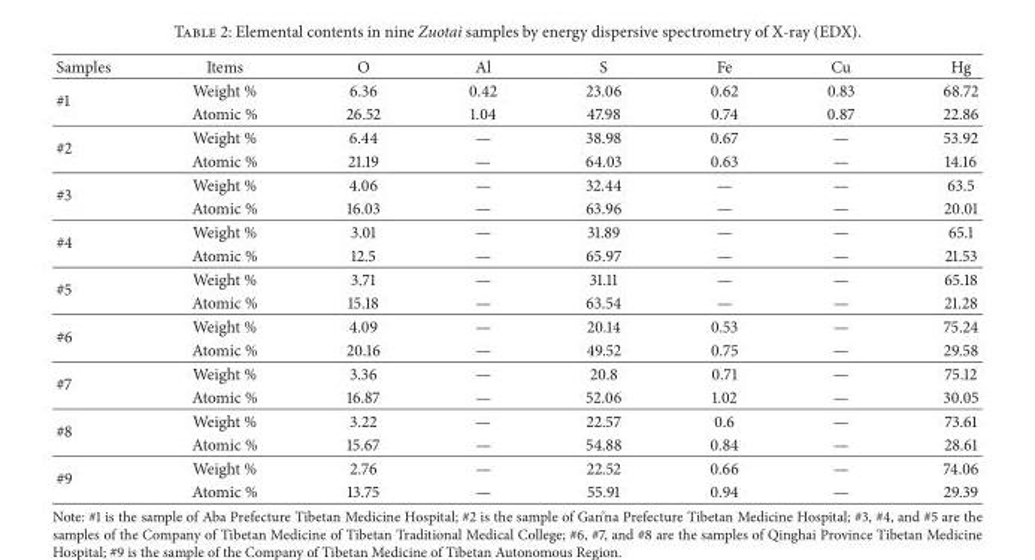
<table><thead><tr><td>Samples</td><td>Items</td><td>O</td><td>Al</td><td>S</td><td>Fe</td><td>Cu</td><td>Hg</td></tr></thead><tbody><tr><td rowspan="2">#1</td><td>Weight %</td><td>6.36</td><td>0.42</td><td>23.06</td><td>0.62</td><td>0.83</td><td>68.72</td></tr><tr><td>Atomic %</td><td>26.52</td><td>1.04</td><td>47.98</td><td>0.74</td><td>0.87</td><td>22.86</td></tr><tr><td rowspan="2">#2</td><td>Weight %</td><td>6.44</td><td>—</td><td>38.98</td><td>0.67</td><td>—</td><td>53.92</td></tr><tr><td>Atomic %</td><td>21.19</td><td>—</td><td>64.03</td><td>0.63</td><td>—</td><td>14.16</td></tr><tr><td rowspan="2">#3</td><td>Weight %</td><td>4.06</td><td>—</td><td>32.44</td><td>—</td><td>—</td><td>63.5</td></tr><tr><td>Atomic %</td><td>16.03</td><td>—</td><td>63.96</td><td>—</td><td>—</td><td>20.01</td></tr><tr><td rowspan="2">#4</td><td>Weight %</td><td>3.01</td><td>—</td><td>31.89</td><td>—</td><td>—</td><td>65.1</td></tr><tr><td>Atomic %</td><td>12.5</td><td>—</td><td>65.97</td><td>—</td><td>—</td><td>21.53</td></tr><tr><td rowspan="2">#5</td><td>Weight %</td><td>3.71</td><td>—</td><td>31.11</td><td>—</td><td>—</td><td>65.18</td></tr><tr><td>Atomic %</td><td>15.18</td><td>—</td><td>63.54</td><td>—</td><td>—</td><td>21.28</td></tr><tr><td rowspan="2">#6</td><td>Weight %</td><td>4.09</td><td>—</td><td>20.14</td><td>0.53</td><td>—</td><td>75.24</td></tr><tr><td>Atomic %</td><td>20.16</td><td>—</td><td>49.52</td><td>0.75</td><td>—</td><td>29.58</td></tr><tr><td rowspan="2">#7</td><td>Weight %</td><td>3.36</td><td>—</td><td>20.8</td><td>0.71</td><td>—</td><td>75.12</td></tr><tr><td>Atomic %</td><td>16.87</td><td>—</td><td>52.06</td><td>1.02</td><td>—</td><td>30.05</td></tr><tr><td rowspan="2">#8</td><td>Weight %</td><td>3.22</td><td>—</td><td>22.57</td><td>0.6</td><td>—</td><td>73.61</td></tr><tr><td>Atomic %</td><td>15.67</td><td>—</td><td>54.88</td><td>0.84</td><td>—</td><td>28.61</td></tr><tr><td rowspan="2">#9</td><td>Weight %</td><td>2.76</td><td>—</td><td>22.52</td><td>0.66</td><td>—</td><td>74.06</td></tr><tr><td>Atomic %</td><td>13.75</td><td>—</td><td>55.91</td><td>0.94</td><td>—</td><td>29.39</td></tr></tbody></table>